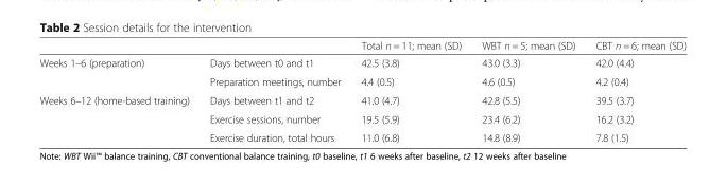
<table><thead><tr><td></td><td></td><td>Total n = 11; mean (SD)</td><td>WBT n = 5; mean (SD)</td><td>CBT n = 6; mean (SD)</td></tr></thead><tbody><tr><td rowspan="2">Weeks 1–6 (preparation)</td><td>Days between t0 and t1</td><td>42.5 (3.8)</td><td>43.0 (3.3)</td><td>42.0 (4.4)</td></tr><tr><td>Preparation meetings, number</td><td>4.4 (0.5)</td><td>4.6 (0.5)</td><td>4.2 (0.4)</td></tr><tr><td rowspan="3">Weeks 6–12 (home-based training)</td><td>Days between t1 and t2</td><td>41.0 (4.7)</td><td>42.8 (5.5)</td><td>39.5 (3.7)</td></tr><tr><td>Exercise sessions, number</td><td>19.5 (5.9)</td><td>23.4 (6.2)</td><td>16.2 (3.2)</td></tr><tr><td>Exercise duration, total hours</td><td>11.0 (6.8)</td><td>14.8 (8.9)</td><td>7.8 (1.5)</td></tr></tbody></table>